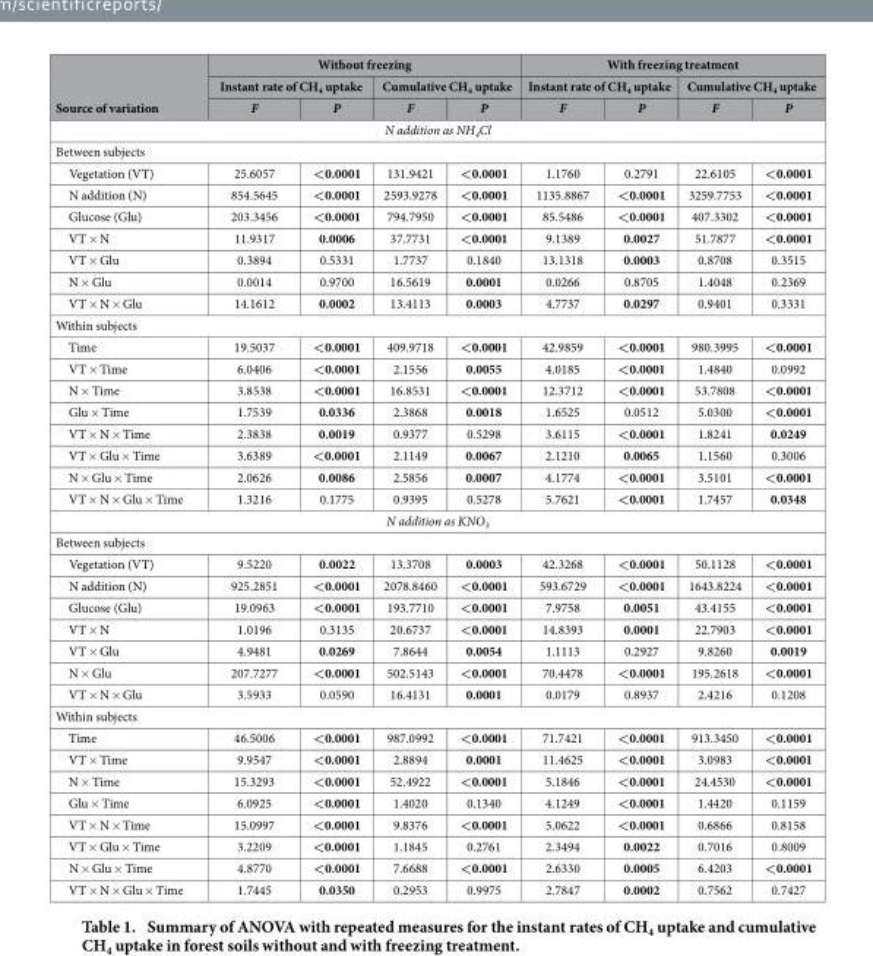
<table><thead><tr><td rowspan="3">Source of variation</td><td colspan="4">Without freezing</td><td colspan="4">With freezing treatment</td></tr><tr><td colspan="2">Instant rate of CH<sub>4</sub> uptake</td><td colspan="2">Cumulative CH<sub>4</sub> uptake</td><td colspan="2">Instant rate of CH<sub>4</sub> uptake</td><td colspan="2">Cumulative CH<sub>4</sub> uptake</td></tr><tr><td>F</td><td>P</td><td>F</td><td>P</td><td>F</td><td>P</td><td>F</td><td>P</td></tr></thead><tbody><tr><td colspan="9">N addition as NH<sub>4</sub>Cl</td></tr><tr><td colspan="9">Between subjects</td></tr><tr><td>Vegetation (VT)</td><td>25.6057</td><td>&lt;0.0001</td><td>131.9421</td><td>&lt;0.0001</td><td>1.1760</td><td>0.2791</td><td>22.6105</td><td>&lt;0.0001</td></tr><tr><td>N addition (N)</td><td>854.5645</td><td>&lt;0.0001</td><td>2593.9278</td><td>&lt;0.0001</td><td>1135.8867</td><td>&lt;0.0001</td><td>3259.7753</td><td>&lt;0.0001</td></tr><tr><td>Glucose (Glu)</td><td>203.3456</td><td>&lt;0.0001</td><td>794.7950</td><td>&lt;0.0001</td><td>85.5486</td><td>&lt;0.0001</td><td>407.3302</td><td>&lt;0.0001</td></tr><tr><td>VT × N</td><td>11.9317</td><td>0.0006</td><td>37.7731</td><td>&lt;0.0001</td><td>9.1389</td><td>0.0027</td><td>51.7877</td><td>&lt;0.0001</td></tr><tr><td>VT × Glu</td><td>0.3894</td><td>0.5331</td><td>1.7737</td><td>0.1840</td><td>13.1318</td><td>0.0003</td><td>0.8708</td><td>0.3515</td></tr><tr><td>N × Glu</td><td>0.0014</td><td>0.9700</td><td>16.5619</td><td>0.0001</td><td>0.0266</td><td>0.8705</td><td>1.4048</td><td>0.2369</td></tr><tr><td>VT × N × Glu</td><td>14.1612</td><td>0.0002</td><td>13.4113</td><td>0.0003</td><td>4.7737</td><td>0.0297</td><td>0.9401</td><td>0.3331</td></tr><tr><td colspan="9">Within subjects</td></tr><tr><td>Time</td><td>19.5037</td><td>&lt;0.0001</td><td>409.9718</td><td>&lt;0.0001</td><td>42.9859</td><td>&lt;0.0001</td><td>980.3995</td><td>&lt;0.0001</td></tr><tr><td>VT × Time</td><td>6.0406</td><td>&lt;0.0001</td><td>2.1556</td><td>0.0055</td><td>4.0185</td><td>&lt;0.0001</td><td>1.4840</td><td>0.0992</td></tr><tr><td>N × Time</td><td>3.8538</td><td>&lt;0.0001</td><td>16.8531</td><td>&lt;0.0001</td><td>12.3712</td><td>&lt;0.0001</td><td>53.7808</td><td>&lt;0.0001</td></tr><tr><td>Glu × Time</td><td>1.7539</td><td>0.0336</td><td>2.3868</td><td>0.0018</td><td>1.6525</td><td>0.0512</td><td>5.0300</td><td>&lt;0.0001</td></tr><tr><td>VT × N × Time</td><td>2.3838</td><td>0.0019</td><td>0.9377</td><td>0.5298</td><td>3.6115</td><td>&lt;0.0001</td><td>1.8241</td><td>0.0249</td></tr><tr><td>VT × Glu × Time</td><td>3.6389</td><td>&lt;0.0001</td><td>2.1149</td><td>0.0067</td><td>2.1210</td><td>0.0065</td><td>1.1560</td><td>0.3006</td></tr><tr><td>N × Glu × Time</td><td>2.0626</td><td>0.0086</td><td>2.5856</td><td>0.0007</td><td>4.1774</td><td>&lt;0.0001</td><td>3.5101</td><td>&lt;0.0001</td></tr><tr><td>VT × N × Glu × Time</td><td>1.3216</td><td>0.1775</td><td>0.9395</td><td>0.5278</td><td>5.7621</td><td>&lt;0.0001</td><td>1.7457</td><td>0.0348</td></tr><tr><td colspan="9">N addition as KNO<sub>3</sub></td></tr><tr><td colspan="9">Between subjects</td></tr><tr><td>Vegetation (VT)</td><td>9.5220</td><td>0.0022</td><td>13.3708</td><td>0.0003</td><td>42.3268</td><td>&lt;0.0001</td><td>50.1128</td><td>&lt;0.0001</td></tr><tr><td>N addition (N)</td><td>925.2851</td><td>&lt;0.0001</td><td>2078.8460</td><td>&lt;0.0001</td><td>593.6729</td><td>&lt;0.0001</td><td>1643.8224</td><td>&lt;0.0001</td></tr><tr><td>Glucose (Glu)</td><td>19.0963</td><td>&lt;0.0001</td><td>193.7710</td><td>&lt;0.0001</td><td>7.9758</td><td>0.0051</td><td>43.4155</td><td>&lt;0.0001</td></tr><tr><td>VT × N</td><td>1.0196</td><td>0.3135</td><td>20.6737</td><td>&lt;0.0001</td><td>14.8393</td><td>0.0001</td><td>22.7903</td><td>&lt;0.0001</td></tr><tr><td>VT × Glu</td><td>4.9481</td><td>0.0269</td><td>7.8644</td><td>0.0054</td><td>1.1113</td><td>0.2927</td><td>9.8260</td><td>0.0019</td></tr><tr><td>N × Glu</td><td>207.7277</td><td>&lt;0.0001</td><td>502.5143</td><td>&lt;0.0001</td><td>70.4478</td><td>&lt;0.0001</td><td>195.2618</td><td>&lt;0.0001</td></tr><tr><td>VT × N × Glu</td><td>3.5933</td><td>0.0590</td><td>16.4131</td><td>0.0001</td><td>0.0179</td><td>0.8937</td><td>2.4216</td><td>0.1208</td></tr><tr><td colspan="9">Within subjects</td></tr><tr><td>Time</td><td>46.5006</td><td>&lt;0.0001</td><td>987.0992</td><td>&lt;0.0001</td><td>71.7421</td><td>&lt;0.0001</td><td>913.3450</td><td>&lt;0.0001</td></tr><tr><td>VT × Time</td><td>9.9547</td><td>&lt;0.0001</td><td>2.8894</td><td>0.0001</td><td>11.4625</td><td>&lt;0.0001</td><td>3.0983</td><td>&lt;0.0001</td></tr><tr><td>N × Time</td><td>15.3293</td><td>&lt;0.0001</td><td>52.4922</td><td>&lt;0.0001</td><td>5.1846</td><td>&lt;0.0001</td><td>24.4530</td><td>&lt;0.0001</td></tr><tr><td>Glu × Time</td><td>6.0925</td><td>&lt;0.0001</td><td>1.4020</td><td>0.1340</td><td>4.1249</td><td>&lt;0.0001</td><td>1.4420</td><td>0.1159</td></tr><tr><td>VT × N × Time</td><td>15.0997</td><td>&lt;0.0001</td><td>9.8376</td><td>&lt;0.0001</td><td>5.0622</td><td>&lt;0.0001</td><td>0.6866</td><td>0.8158</td></tr><tr><td>VT × Glu × Time</td><td>3.2209</td><td>&lt;0.0001</td><td>1.1845</td><td>0.2761</td><td>2.3494</td><td>0.0022</td><td>0.7016</td><td>0.8009</td></tr><tr><td>N × Glu × Time</td><td>4.8770</td><td>&lt;0.0001</td><td>7.6688</td><td>&lt;0.0001</td><td>2.6330</td><td>0.0005</td><td>6.4203</td><td>&lt;0.0001</td></tr><tr><td>VT × N × Glu × Time</td><td>1.7445</td><td>0.0350</td><td>0.2953</td><td>0.9975</td><td>2.7847</td><td>0.0002</td><td>0.7562</td><td>0.7427</td></tr></tbody></table>